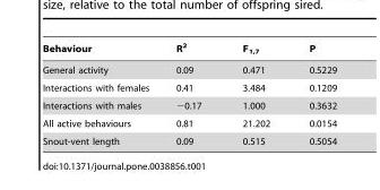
<table><thead><tr><td>Behaviour</td><td>R<sup>2</sup></td><td>F<sub>1,7</sub></td><td>P</td></tr></thead><tbody><tr><td>General activity</td><td>0.09</td><td>0.471</td><td>0.5229</td></tr><tr><td>Interactions with females</td><td>0.41</td><td>3.484</td><td>0.1209</td></tr><tr><td>Interactions with males</td><td>−0.17</td><td>1.000</td><td>0.3632</td></tr><tr><td>All active behaviours</td><td>0.81</td><td>21.202</td><td>0.0154</td></tr><tr><td>Snout-vent length</td><td>0.09</td><td>0.515</td><td>0.5054</td></tr></tbody></table>